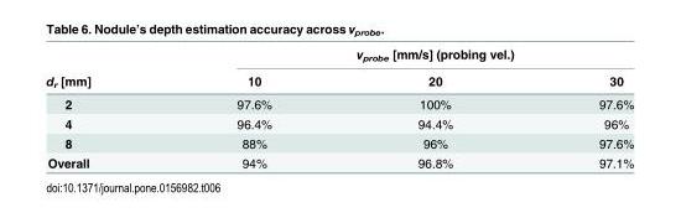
<table><thead><tr><td rowspan="2">d<sub>r</sub> [mm]</td><td colspan="3">v<sub>probe</sub> [mm/s] (probing vel.)</td></tr><tr><td>10</td><td>20</td><td>30</td></tr></thead><tbody><tr><td>2</td><td>97.6%</td><td>100%</td><td>97.6%</td></tr><tr><td>4</td><td>96.4%</td><td>94.4%</td><td>96%</td></tr><tr><td>8</td><td>88%</td><td>96%</td><td>97.6%</td></tr><tr><td>Overall</td><td>94%</td><td>96.8%</td><td>97.1%</td></tr></tbody></table>